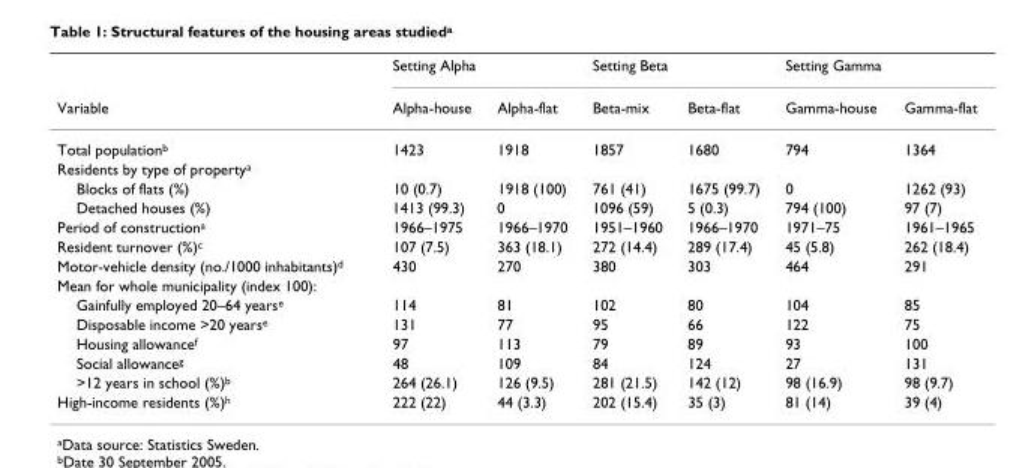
<table><thead><tr><td rowspan="2">Variable</td><td colspan="2">Setting Alpha</td><td colspan="2">Setting Beta</td><td colspan="2">Setting Gamma</td></tr><tr><td>Alpha-house</td><td>Alpha-flat</td><td>Beta-mix</td><td>Beta-flat</td><td>Gamma-house</td><td>Gamma-flat</td></tr></thead><tbody><tr><td>Total population<sup>b</sup></td><td>1423</td><td>1918</td><td>1857</td><td>1680</td><td>794</td><td>1364</td></tr><tr><td colspan="7">Residents by type of property<sup>a</sup></td></tr><tr><td>Blocks of flats (%)</td><td>10 (0.7)</td><td>1918 (100)</td><td>761 (41)</td><td>1675 (99.7)</td><td>0</td><td>1262 (93)</td></tr><tr><td>Detached houses (%)</td><td>1413 (99.3)</td><td>0</td><td>1096 (59)</td><td>5 (0.3)</td><td>794 (100)</td><td>97 (7)</td></tr><tr><td>Period of construction<sup>a</sup></td><td>1966–1975</td><td>1966–1970</td><td>1951–1960</td><td>1966–1970</td><td>1971–75</td><td>1961–1965</td></tr><tr><td>Resident turnover (%)<sup>c</sup></td><td>107 (7.5)</td><td>363 (18.1)</td><td>272 (14.4)</td><td>289 (17.4)</td><td>45 (5.8)</td><td>262 (18.4)</td></tr><tr><td>Motor-vehicle density (no./1000 inhabitants)<sup>d</sup></td><td>430</td><td>270</td><td>380</td><td>303</td><td>464</td><td>291</td></tr><tr><td colspan="7">Mean for whole municipality (index 100):</td></tr><tr><td>Gainfully employed 20–64 years<sup>e</sup></td><td>114</td><td>81</td><td>102</td><td>80</td><td>104</td><td>85</td></tr><tr><td>Disposable income &gt;20 years<sup>e</sup></td><td>131</td><td>77</td><td>95</td><td>66</td><td>122</td><td>75</td></tr><tr><td>Housing allowance<sup>f</sup></td><td>97</td><td>113</td><td>79</td><td>89</td><td>93</td><td>100</td></tr><tr><td>Social allowance<sup>g</sup></td><td>48</td><td>109</td><td>84</td><td>124</td><td>27</td><td>131</td></tr><tr><td>&gt;12 years in school (%)<sup>b</sup></td><td>264 (26.1)</td><td>126 (9.5)</td><td>281 (21.5)</td><td>142 (12)</td><td>98 (16.9)</td><td>98 (9.7)</td></tr><tr><td>High-income residents (%)<sup>h</sup></td><td>222 (22)</td><td>44 (3.3)</td><td>202 (15.4)</td><td>35 (3)</td><td>81 (14)</td><td>39 (4)</td></tr></tbody></table>